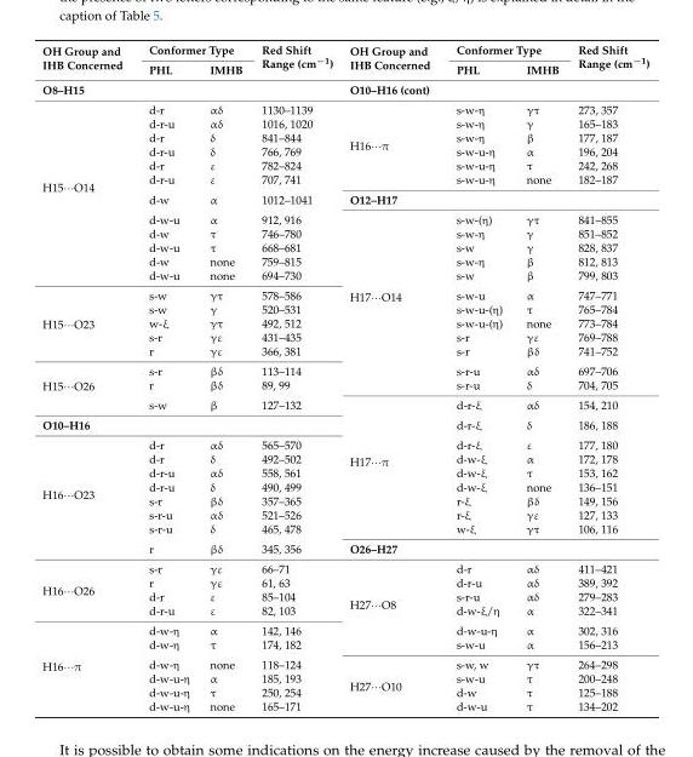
<table><thead><tr><td rowspan="2">OH Group and IHB Concerned</td><td colspan="2">Conformer Type</td><td rowspan="2">Red Shift Range (cm<sup>−1</sup>)</td><td rowspan="2">OH Group and IHB Concerned</td><td colspan="2">Conformer Type</td><td rowspan="2">Red Shift Range (cm<sup>−1</sup>)</td></tr><tr><td>PHL</td><td>IMHB</td><td>PHL</td><td>IMHB</td></tr></thead><tbody><tr><td colspan="2">O8–H15</td><td></td><td></td><td colspan="2">O10–H16 (cont)</td><td></td><td></td></tr><tr><td rowspan="12">H15···O14</td><td>d-r</td><td>αδ</td><td>1130–1139</td><td rowspan="6">H16···π</td><td>s-w-η</td><td>γτ</td><td>273, 357</td></tr><tr><td>d-r-u</td><td>αδ</td><td>1016, 1020</td><td>s-w-η</td><td>γ</td><td>165–183</td></tr><tr><td>d-r</td><td>δ</td><td>841–844</td><td>s-w-η</td><td>β</td><td>177, 187</td></tr><tr><td>d-r-u</td><td>δ</td><td>766, 769</td><td>s-w-u-η</td><td>α</td><td>196, 204</td></tr><tr><td>d-r</td><td>ε</td><td>782–824</td><td>s-w-u-η</td><td>τ</td><td>242, 268</td></tr><tr><td>d-r-u</td><td>ε</td><td>707, 741</td><td>s-w-u-η</td><td>none</td><td>182–187</td></tr><tr><td>d-w</td><td>α</td><td>1012–1041</td><td colspan="2">O12–H17</td><td></td><td></td></tr><tr><td>d-w-u</td><td>α</td><td>912, 916</td><td rowspan="12">H17···O14</td><td>s-w-(η)</td><td>γτ</td><td>841–855</td></tr><tr><td>d-w</td><td>τ</td><td>746–780</td><td>s-w-η</td><td>γ</td><td>851–852</td></tr><tr><td>d-w-u</td><td>τ</td><td>668–681</td><td>s-w</td><td>γ</td><td>828, 837</td></tr><tr><td>d-w</td><td>none</td><td>759–815</td><td>s-w-η</td><td>β</td><td>812, 813</td></tr><tr><td>d-w-u</td><td>none</td><td>694–730</td><td>s-w</td><td>β</td><td>799, 803</td></tr><tr><td rowspan="5">H15···O23</td><td>s-w</td><td>γτ</td><td>578–586</td><td>s-w-u</td><td>α</td><td>747–771</td></tr><tr><td>s-w</td><td>γ</td><td>520–531</td><td>s-w-u-(η)</td><td>τ</td><td>765–784</td></tr><tr><td>w-ξ</td><td>γτ</td><td>492, 512</td><td>s-w-u-(η)</td><td>none</td><td>773–784</td></tr><tr><td>s-r</td><td>γε</td><td>431–435</td><td>s-r</td><td>γε</td><td>769–788</td></tr><tr><td>r</td><td>γε</td><td>366, 381</td><td>s-r</td><td>βδ</td><td>741–752</td></tr><tr><td rowspan="3">H15···O26</td><td>s-r</td><td>βδ</td><td>113–114</td><td>s-r-u</td><td>αδ</td><td>697–706</td></tr><tr><td>r</td><td>βδ</td><td>89, 99</td><td>s-r-u</td><td>δ</td><td>704, 705</td></tr><tr><td>s-w</td><td>β</td><td>127–132</td><td rowspan="9">H17···π</td><td>d-r-ξ</td><td>αδ</td><td>154, 210</td></tr><tr><td colspan="2">O10–H16</td><td></td><td></td><td>d-r-ξ</td><td>δ</td><td>186, 188</td></tr><tr><td rowspan="8">H16···O23</td><td>d-r</td><td>αδ</td><td>565–570</td><td>d-r-ξ</td><td>ε</td><td>177, 180</td></tr><tr><td>d-r</td><td>δ</td><td>492–502</td><td>d-w-ξ</td><td>α</td><td>172, 178</td></tr><tr><td>d-r-u</td><td>αδ</td><td>558, 561</td><td>d-w-ξ</td><td>τ</td><td>153, 162</td></tr><tr><td>d-r-u</td><td>δ</td><td>490, 499</td><td>d-w-ξ</td><td>none</td><td>136–151</td></tr><tr><td>s-r</td><td>βδ</td><td>357–365</td><td>r-ξ</td><td>βδ</td><td>149, 156</td></tr><tr><td>s-r-u</td><td>αδ</td><td>521–526</td><td>r-ξ</td><td>γε</td><td>127, 133</td></tr><tr><td>s-r-u</td><td>δ</td><td>465, 478</td><td>w-ξ</td><td>γτ</td><td>106, 116</td></tr><tr><td>r</td><td>βδ</td><td>345, 356</td><td colspan="2">O26–H27</td><td></td><td></td></tr><tr><td rowspan="4">H16···O26</td><td>s-r</td><td>γε</td><td>66–71</td><td rowspan="6">H27···O8</td><td>d-r</td><td>αδ</td><td>411–421</td></tr><tr><td>r</td><td>γε</td><td>61, 63</td><td>d-r-u</td><td>αδ</td><td>389, 392</td></tr><tr><td>d-r</td><td>ε</td><td>85–104</td><td>s-r-u</td><td>αδ</td><td>279–283</td></tr><tr><td>d-r-u</td><td>ε</td><td>82, 103</td><td>d-w-ξ/η</td><td>α</td><td>322–341</td></tr><tr><td rowspan="6">H16···π</td><td>d-w-η</td><td>α</td><td>142, 146</td><td>d-w-u-η</td><td>α</td><td>302, 316</td></tr><tr><td>d-w-η</td><td>τ</td><td>174, 182</td><td>s-w-u</td><td>α</td><td>156–213</td></tr><tr><td>d-w-η</td><td>none</td><td>118–124</td><td rowspan="4">H27···O10</td><td>s-w, w</td><td>γτ</td><td>264–298</td></tr><tr><td>d-w-u-η</td><td>α</td><td>185, 193</td><td>s-w-u</td><td>τ</td><td>200–248</td></tr><tr><td>d-w-u-η</td><td>τ</td><td>250, 254</td><td>d-w</td><td>τ</td><td>125–188</td></tr><tr><td>d-w-u-η</td><td>none</td><td>165–171</td><td>d-w-u</td><td>τ</td><td>134–202</td></tr></tbody></table>